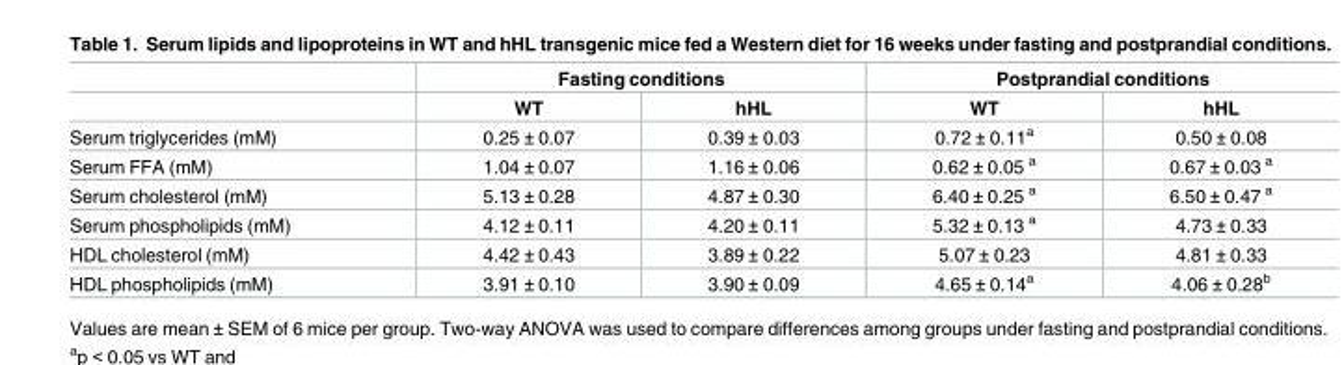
<table><thead><tr><td rowspan="2"></td><td colspan="2">Fasting conditions</td><td colspan="2">Postprandial conditions</td></tr><tr><td>WT</td><td>hHL</td><td>WT</td><td>hHL</td></tr></thead><tbody><tr><td>Serum triglycerides (mM)</td><td>0.25 ± 0.07</td><td>0.39 ± 0.03</td><td>0.72 ± 0.11<sup>a</sup></td><td>0.50 ± 0.08</td></tr><tr><td>Serum FFA (mM)</td><td>1.04 ± 0.07</td><td>1.16 ± 0.06</td><td>0.62 ± 0.05 <sup>a</sup></td><td>0.67 ± 0.03 <sup>a</sup></td></tr><tr><td>Serum cholesterol (mM)</td><td>5.13 ± 0.28</td><td>4.87 ± 0.30</td><td>6.40 ± 0.25 <sup>a</sup></td><td>6.50 ± 0.47 <sup>a</sup></td></tr><tr><td>Serum phospholipids (mM)</td><td>4.12 ± 0.11</td><td>4.20 ± 0.11</td><td>5.32 ± 0.13 <sup>a</sup></td><td>4.73 ± 0.33</td></tr><tr><td>HDL cholesterol (mM)</td><td>4.42 ± 0.43</td><td>3.89 ± 0.22</td><td>5.07 ± 0.23</td><td>4.81 ± 0.33</td></tr><tr><td>HDL phospholipids (mM)</td><td>3.91 ± 0.10</td><td>3.90 ± 0.09</td><td>4.65 ± 0.14<sup>a</sup></td><td>4.06 ± 0.28<sup>b</sup></td></tr></tbody></table>